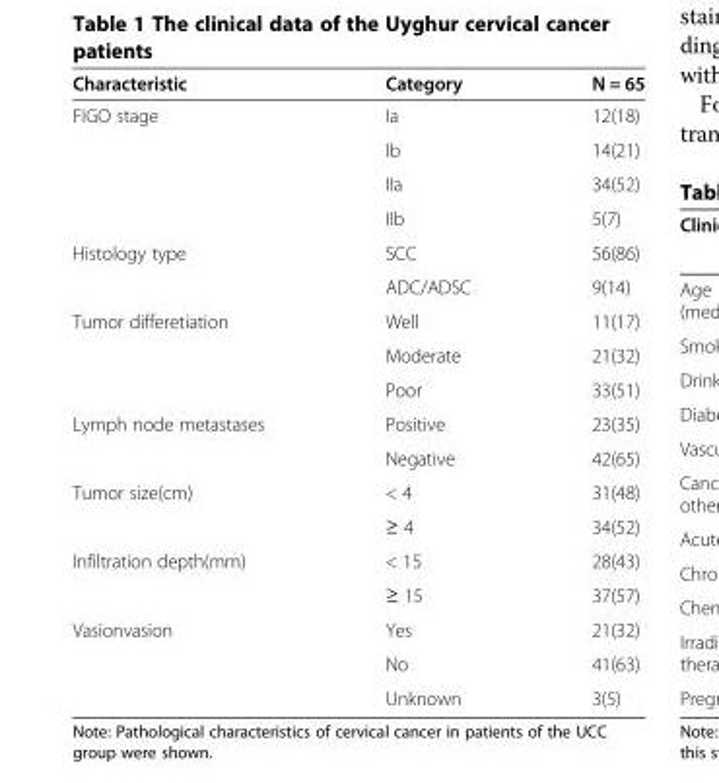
<table><thead><tr><td>Characteristic</td><td>Category</td><td>N = 65</td></tr></thead><tbody><tr><td rowspan="4">FIGO stage</td><td>Ia</td><td>12(18)</td></tr><tr><td>Ib</td><td>14(21)</td></tr><tr><td>IIa</td><td>34(52)</td></tr><tr><td>IIb</td><td>5(7)</td></tr><tr><td rowspan="2">Histology type</td><td>SCC</td><td>56(86)</td></tr><tr><td>ADC/ADSC</td><td>9(14)</td></tr><tr><td rowspan="3">Tumor differetiation</td><td>Well</td><td>11(17)</td></tr><tr><td>Moderate</td><td>21(32)</td></tr><tr><td>Poor</td><td>33(51)</td></tr><tr><td rowspan="2">Lymph node metastases</td><td>Positive</td><td>23(35)</td></tr><tr><td>Negative</td><td>42(65)</td></tr><tr><td rowspan="2">Tumor size(cm)</td><td>&lt; 4</td><td>31(48)</td></tr><tr><td>≥ 4</td><td>34(52)</td></tr><tr><td rowspan="2">Infiltration depth(mm)</td><td>&lt; 15</td><td>28(43)</td></tr><tr><td>≥ 15</td><td>37(57)</td></tr><tr><td rowspan="3">Vasionvasion</td><td>Yes</td><td>21(32)</td></tr><tr><td>No</td><td>41(63)</td></tr><tr><td>Unknown</td><td>3(5)</td></tr></tbody></table>